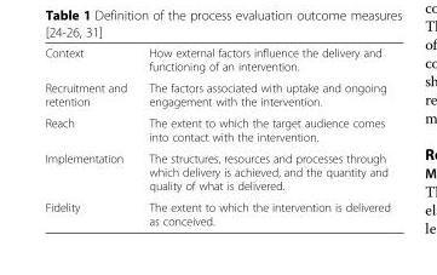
<table><tbody><tr><td>Context</td><td>How external factors influence the delivery and functioning of an intervention.</td></tr><tr><td>Recruitment and retention</td><td>The factors associated with uptake and ongoing engagement with the intervention.</td></tr><tr><td>Reach</td><td>The extent to which the target audience comes into contact with the intervention.</td></tr><tr><td>Implementation</td><td>The structures, resources and processes through which delivery is achieved, and the quantity and quality of what is delivered.</td></tr><tr><td>Fidelity</td><td>The extent to which the intervention is delivered as conceived.</td></tr></tbody></table>